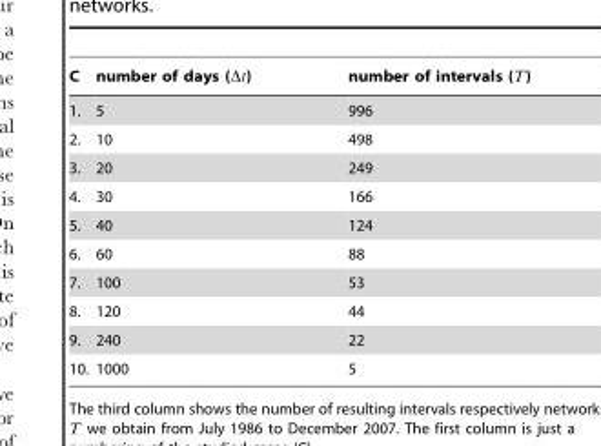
<table><thead><tr><td>C</td><td>number of days (Dt)</td><td>number of intervals (T)</td></tr></thead><tbody><tr><td>1.</td><td>5</td><td>996</td></tr><tr><td>2.</td><td>10</td><td>498</td></tr><tr><td>3.</td><td>20</td><td>249</td></tr><tr><td>4.</td><td>30</td><td>166</td></tr><tr><td>5.</td><td>40</td><td>124</td></tr><tr><td>6.</td><td>60</td><td>88</td></tr><tr><td>7.</td><td>100</td><td>53</td></tr><tr><td>8.</td><td>120</td><td>44</td></tr><tr><td>9.</td><td>240</td><td>22</td></tr><tr><td>10.</td><td>1000</td><td>5</td></tr></tbody></table>